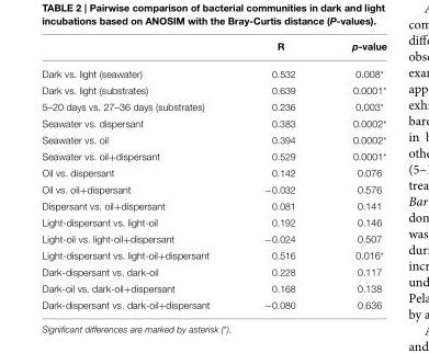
<table><thead><tr><td></td><td>R</td><td>p-value</td></tr></thead><tbody><tr><td>Dark vs. light (seawater)</td><td>0.532</td><td>0.008*</td></tr><tr><td>Dark vs. light (substrates)</td><td>0.639</td><td>0.0001*</td></tr><tr><td>5–20 days vs. 27–36 days (substrates)</td><td>0.236</td><td>0.003*</td></tr><tr><td>Seawater vs. dispersant</td><td>0.383</td><td>0.0002*</td></tr><tr><td>Seawater vs. oil</td><td>0.394</td><td>0.0002*</td></tr><tr><td>Seawater vs. oil+dispersant</td><td>0.529</td><td>0.0001*</td></tr><tr><td>Oil vs. dispersant</td><td>0.142</td><td>0.076</td></tr><tr><td>Oil vs. oil+dispersant</td><td>−0.032</td><td>0.576</td></tr><tr><td>Dispersant vs. oil+dispersant</td><td>0.081</td><td>0.141</td></tr><tr><td>Light-dispersant vs. light-oil</td><td>0.192</td><td>0.146</td></tr><tr><td>Light-oil vs. light-oil+dispersant</td><td>−0.024</td><td>0.507</td></tr><tr><td>Light-dispersant vs. light-oil+dispersant</td><td>0.516</td><td>0.016*</td></tr><tr><td>Dark-dispersant vs. dark-oil</td><td>0.228</td><td>0.117</td></tr><tr><td>Dark-oil vs. dark-oil+dispersant</td><td>0.168</td><td>0.138</td></tr><tr><td>Dark-dispersant vs. dark-oil+dispersant</td><td>−0.080</td><td>0.636</td></tr></tbody></table>